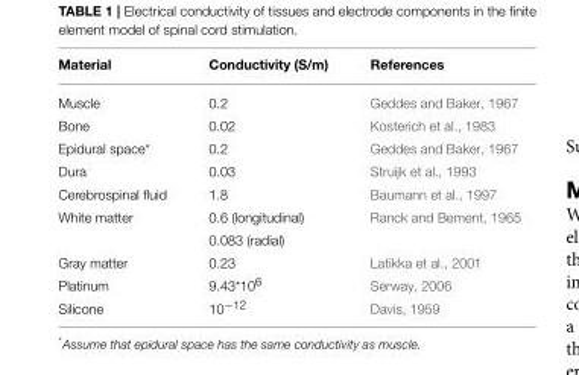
<table><thead><tr><td>Material</td><td>Conductivity (S/m)</td><td>References</td></tr></thead><tbody><tr><td>Muscle</td><td>0.2</td><td>Geddes and Baker, 1967</td></tr><tr><td>Bone</td><td>0.02</td><td>Kosterich et al., 1983</td></tr><tr><td>Epidural space*</td><td>0.2</td><td>Geddes and Baker, 1967</td></tr><tr><td>Dura</td><td>0.03</td><td>Struijk et al., 1993</td></tr><tr><td>Cerebrospinal fluid</td><td>1.8</td><td>Baumann et al., 1997</td></tr><tr><td rowspan="2">White matter</td><td>0.6 (longitudinal)</td><td>Ranck and Bement, 1965</td></tr><tr><td>0.083 (radial)</td><td></td></tr><tr><td>Gray matter</td><td>0.23</td><td>Latikka et al., 2001</td></tr><tr><td>Platinum</td><td>9.43*10<sup>6</sup></td><td>Serway, 2006</td></tr><tr><td>Silicone</td><td>10<sup>−12</sup></td><td>Davis, 1959</td></tr></tbody></table>